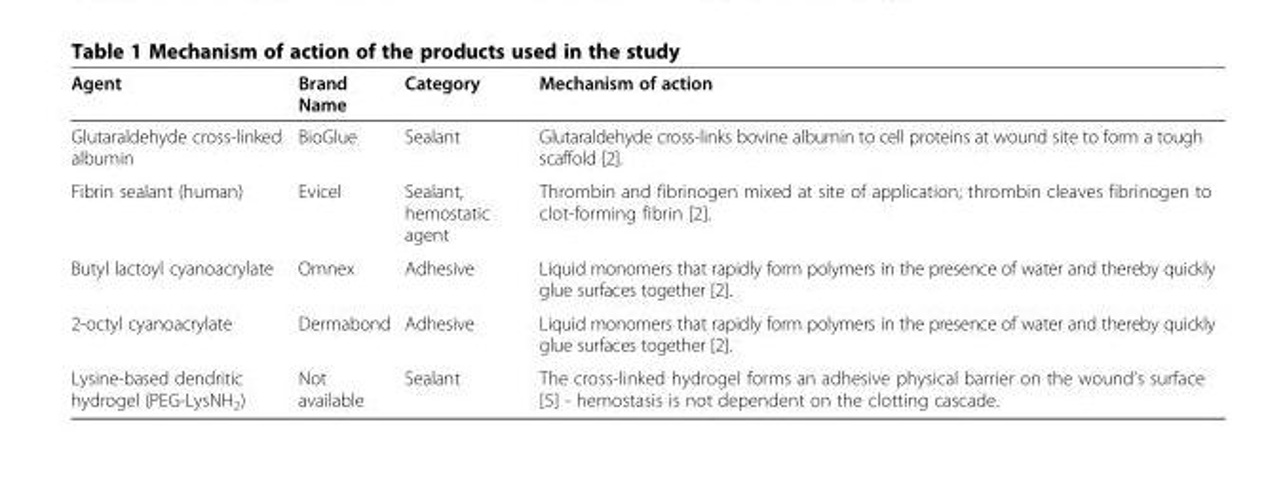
<table><thead><tr><td>Agent</td><td>Brand Name</td><td>Category</td><td>Mechanism of action</td></tr></thead><tbody><tr><td>Glutaraldehyde cross-linked albumin</td><td>BioGlue</td><td>Sealant</td><td>Glutaraldehyde cross-links bovine albumin to cell proteins at wound site to form a tough scaffold [2].</td></tr><tr><td>Fibrin sealant (human)</td><td>Evicel</td><td>Sealant, hemostatic agent</td><td>Thrombin and fibrinogen mixed at site of application; thrombin cleaves fibrinogen to clot-forming fibrin [2].</td></tr><tr><td>Butyl lactoyl cyanoacrylate</td><td>Omnex</td><td>Adhesive</td><td>Liquid monomers that rapidly form polymers in the presence of water and thereby quickly glue surfaces together [2].</td></tr><tr><td>2-octyl cyanoacrylate</td><td>Dermabond</td><td>Adhesive</td><td>Liquid monomers that rapidly form polymers in the presence of water and thereby quickly glue surfaces together [2].</td></tr><tr><td>Lysine-based dendritic hydrogel (PEG-LysNH<sub>2</sub>)</td><td>Not available</td><td>Sealant</td><td>The cross-linked hydrogel forms an adhesive physical barrier on the wound’s surface [5] - hemostasis is not dependent on the clotting cascade.</td></tr></tbody></table>